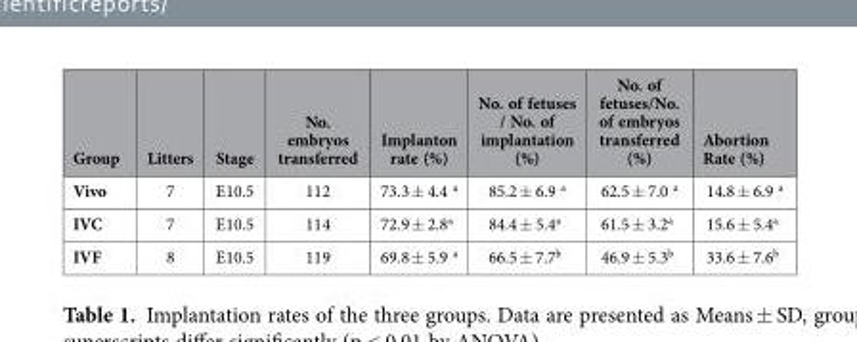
<table><thead><tr><td>Group</td><td>Litters</td><td>Stage</td><td>No. embryos transferred</td><td>Implanton rate (%)</td><td>No. of fetuses / No. of implantation (%)</td><td>No. of fetuses/No. of embryos transferred (%)</td><td>Abortion Rate (%)</td></tr></thead><tbody><tr><td>Vivo</td><td>7</td><td>E10.5</td><td>112</td><td>73.3 ± 4.4 <sup>a</sup></td><td>85.2 ± 6.9 <sup>a</sup></td><td>62.5 ± 7.0 <sup>a</sup></td><td>14.8 ± 6.9 <sup>a</sup></td></tr><tr><td>IVC</td><td>7</td><td>E10.5</td><td>114</td><td>72.9 ± 2.8<sup>a</sup></td><td>84.4 ± 5.4<sup>a</sup></td><td>61.5 ± 3.2<sup>a</sup></td><td>15.6 ± 5.4<sup>a</sup></td></tr><tr><td>IVF</td><td>8</td><td>E10.5</td><td>119</td><td>69.8 ± 5.9 <sup>a</sup></td><td>66.5 ± 7.7<sup>b</sup></td><td>46.9 ± 5.3<sup>b</sup></td><td>33.6 ± 7.6<sup>b</sup></td></tr></tbody></table>